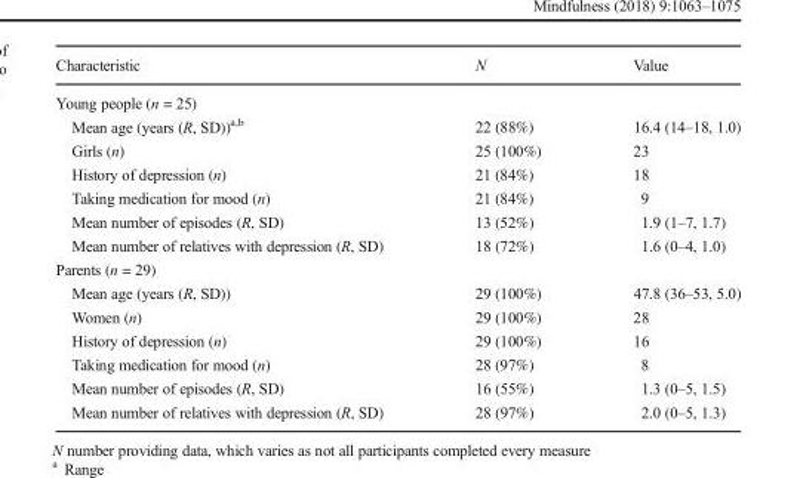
<table><thead><tr><td>Characteristic</td><td>N</td><td>Value</td></tr></thead><tbody><tr><td colspan="3">Young people (n = 25)</td></tr><tr><td>Mean age (years (R, SD))<sup>a,b</sup></td><td>22 (88%)</td><td>16.4 (14–18, 1.0)</td></tr><tr><td>Girls (n)</td><td>25 (100%)</td><td>23</td></tr><tr><td>History of depression (n)</td><td>21 (84%)</td><td>18</td></tr><tr><td>Taking medication for mood (n)</td><td>21 (84%)</td><td>9</td></tr><tr><td>Mean number of episodes (R, SD)</td><td>13 (52%)</td><td>1.9 (1–7, 1.7)</td></tr><tr><td>Mean number of relatives with depression (R, SD)</td><td>18 (72%)</td><td>1.6 (0–4, 1.0)</td></tr><tr><td colspan="3">Parents (n = 29)</td></tr><tr><td>Mean age (years (R, SD))</td><td>29 (100%)</td><td>47.8 (36–53, 5.0)</td></tr><tr><td>Women (n)</td><td>29 (100%)</td><td>28</td></tr><tr><td>History of depression (n)</td><td>29 (100%)</td><td>16</td></tr><tr><td>Taking medication for mood (n)</td><td>28 (97%)</td><td>8</td></tr><tr><td>Mean number of episodes (R, SD)</td><td>16 (55%)</td><td>1.3 (0–5, 1.5)</td></tr><tr><td>Mean number of relatives with depression (R, SD)</td><td>28 (97%)</td><td>2.0 (0–5, 1.3)</td></tr></tbody></table>